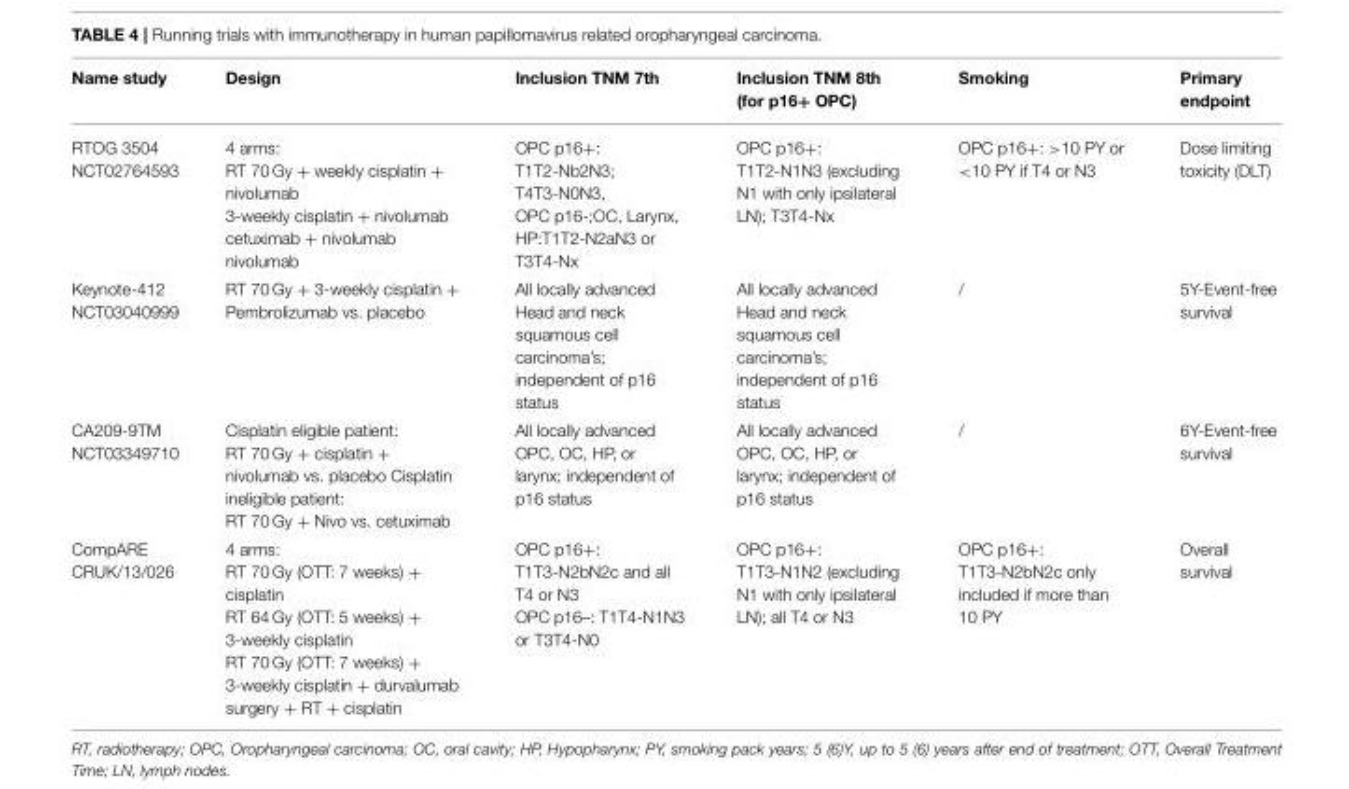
<table><thead><tr><td>Name study</td><td>Design</td><td>Inclusion TNM 7th</td><td>Inclusion TNM 8th (for p16+ OPC)</td><td>Smoking</td><td>Primary endpoint</td></tr></thead><tbody><tr><td>RTOG 3504 NCT02764593</td><td>4 arms: RT 70 Gy + weekly cisplatin + nivolumab 3-weekly cisplatin + nivolumab cetuximab + nivolumab nivolumab</td><td>OPC p16+: T1T2-Nb2N3; T4T3-N0N3, OPC p16-;OC, Larynx, HP:T1T2-N2aN3 or T3T4-Nx</td><td>OPC p16+: T1T2-N1N3 (excluding N1 with only ipsilateral LN); T3T4-Nx</td><td>OPC p16+: &gt;10 PY or &lt;10 PY if T4 or N3</td><td>Dose limiting toxicity (DLT)</td></tr><tr><td>Keynote-412 NCT03040999</td><td>RT 70 Gy + 3-weekly cisplatin + Pembrolizumab vs. placebo</td><td>All locally advanced Head and neck squamous cell carcinoma’s; independent of p16 status</td><td>All locally advanced Head and neck squamous cell carcinoma’s; independent of p16 status</td><td>/</td><td>5Y-Event-free survival</td></tr><tr><td>CA209-9TM NCT03349710</td><td>Cisplatin eligible patient: RT 70 Gy + cisplatin + nivolumab vs. placebo Cisplatin ineligible patient: RT 70 Gy + Nivo vs. cetuximab</td><td>All locally advanced OPC, OC, HP, or larynx; independent of p16 status</td><td>All locally advanced OPC, OC, HP, or larynx; independent of p16 status</td><td>/</td><td>6Y-Event-free survival</td></tr><tr><td>CompARE CRUK/13/026</td><td>4 arms: RT 70 Gy (OTT: 7 weeks) + cisplatin RT 64 Gy (OTT: 5 weeks) + 3-weekly cisplatin RT 70 Gy (OTT: 7 weeks) + 3-weekly cisplatin + durvalumab surgery + RT + cisplatin</td><td>OPC p16+: T1T3-N2bN2c and all T4 or N3 OPC p16–: T1T4-N1N3 or T3T4-N0</td><td>OPC p16+: T1T3-N1N2 (excluding N1 with only ipsilateral LN); all T4 or N3</td><td>OPC p16+: T1T3-N2bN2c only included if more than 10 PY</td><td>Overall survival</td></tr></tbody></table>